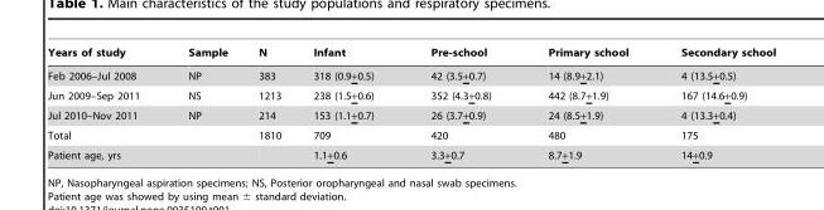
<table><thead><tr><td>Years of study</td><td>Sample</td><td>N</td><td>Infant</td><td>Pre-school</td><td>Primary school</td><td>Secondary school</td></tr></thead><tbody><tr><td>Feb 2006–Jul 2008</td><td>NP</td><td>383</td><td>318 (0.9+0.5)</td><td>42 (3.5+0.7)</td><td>14 (8.9+2.1)</td><td>4 (13.5+0.5)</td></tr><tr><td>Jun 2009–Sep 2011</td><td>NS</td><td>1213</td><td>238 (1.5+0.6)</td><td>352 (4.3+0.8)</td><td>442 (8.7+1.9)</td><td>167 (14.6+0.9)</td></tr><tr><td>Jul 2010–Nov 2011</td><td>NP</td><td>214</td><td>153 (1.1+0.7)</td><td>26 (3.7+0.9)</td><td>24 (8.5+1.9)</td><td>4 (13.3+0.4)</td></tr><tr><td colspan="2">Total</td><td>1810</td><td>709</td><td>420</td><td>480</td><td>175</td></tr><tr><td colspan="2">Patient age, yrs</td><td></td><td>1.1+0.6</td><td>3.3+0.7</td><td>8.7+1.9</td><td>14+0.9</td></tr></tbody></table>